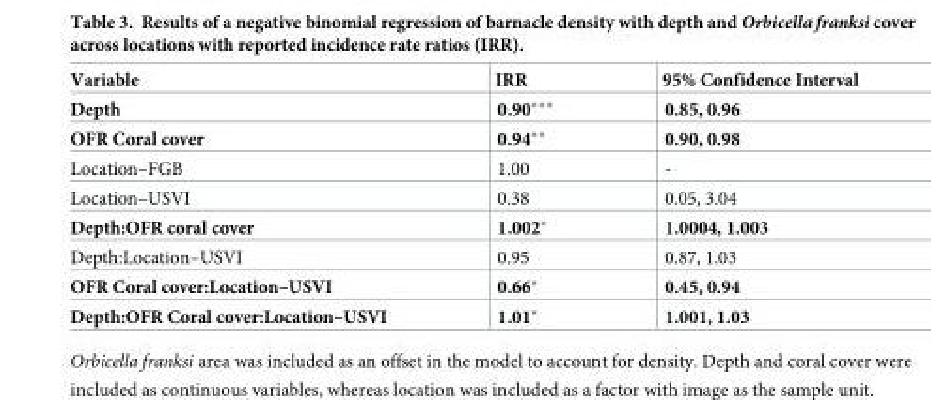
<table><thead><tr><td>Variable</td><td>IRR</td><td>95% Confidence Interval</td></tr></thead><tbody><tr><td>Depth</td><td>0.90***</td><td>0.85, 0.96</td></tr><tr><td>OFR Coral cover</td><td>0.94**</td><td>0.90, 0.98</td></tr><tr><td>Location–FGB</td><td>1.00</td><td>-</td></tr><tr><td>Location–USVI</td><td>0.38</td><td>0.05, 3.04</td></tr><tr><td>Depth:OFR coral cover</td><td>1.002*</td><td>1.0004, 1.003</td></tr><tr><td>Depth:Location–USVI</td><td>0.95</td><td>0.87, 1.03</td></tr><tr><td>OFR Coral cover:Location–USVI</td><td>0.66*</td><td>0.45, 0.94</td></tr><tr><td>Depth:OFR Coral cover:Location–USVI</td><td>1.01*</td><td>1.001, 1.03</td></tr></tbody></table>